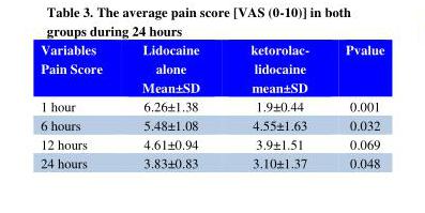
<table><thead><tr><td>Pvalue</td><td>ketorolac- lidocaine mean±SD</td><td>Lidocaine alone Mean±SD</td><td>Variables Pain Score</td></tr></thead><tbody><tr><td>0.001</td><td>1.9±0.44</td><td>6.26±1.38</td><td>1 hour</td></tr><tr><td>0.032</td><td>4.55±1.63</td><td>5.48±1.08</td><td>6 hours</td></tr><tr><td>0.069</td><td>3.9±1.51</td><td>4.61±0.94</td><td>12 hours</td></tr><tr><td>0.048</td><td>3.10±1.37</td><td>3.83±0.83</td><td>24 hours</td></tr></tbody></table>